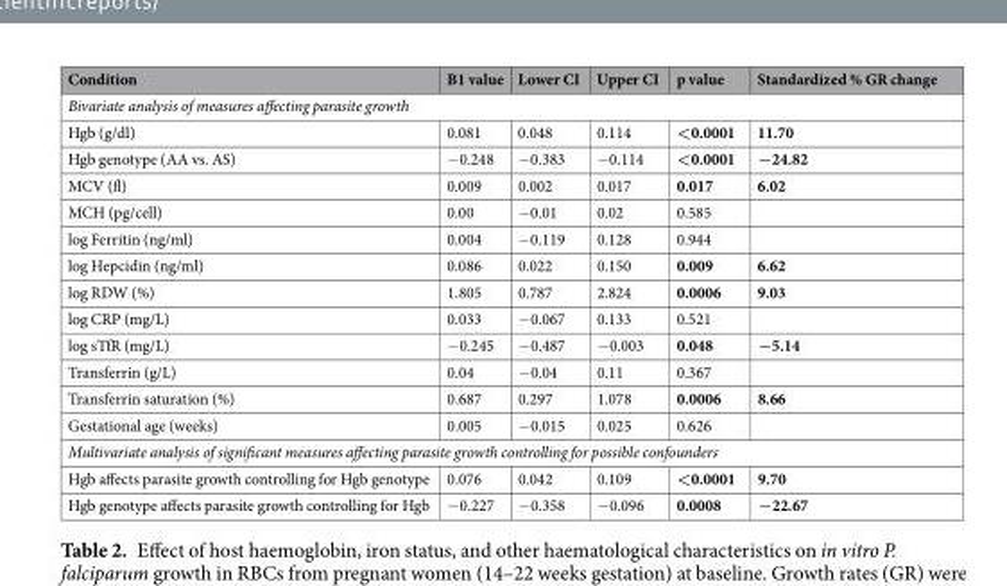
<table><thead><tr><td>Condition</td><td>B1 value</td><td>Lower CI</td><td>Upper CI</td><td>p value</td><td>Standardized % GR change</td></tr></thead><tbody><tr><td colspan="6">Bivariate analysis of measures affecting parasite growth</td></tr><tr><td>Hgb (g/dl)</td><td>0.081</td><td>0.048</td><td>0.114</td><td>&lt;0.0001</td><td>11.70</td></tr><tr><td>Hgb genotype (AA vs. AS)</td><td>−0.248</td><td>−0.383</td><td>−0.114</td><td>&lt;0.0001</td><td>−24.82</td></tr><tr><td>MCV (fl)</td><td>0.009</td><td>0.002</td><td>0.017</td><td>0.017</td><td>6.02</td></tr><tr><td>MCH (pg/cell)</td><td>0.00</td><td>−0.01</td><td>0.02</td><td>0.585</td><td></td></tr><tr><td>log Ferritin (ng/ml)</td><td>0.004</td><td>−0.119</td><td>0.128</td><td>0.944</td><td></td></tr><tr><td>log Hepcidin (ng/ml)</td><td>0.086</td><td>0.022</td><td>0.150</td><td>0.009</td><td>6.62</td></tr><tr><td>log RDW (%)</td><td>1.805</td><td>0.787</td><td>2.824</td><td>0.0006</td><td>9.03</td></tr><tr><td>log CRP (mg/L)</td><td>0.033</td><td>−0.067</td><td>0.133</td><td>0.521</td><td></td></tr><tr><td>log sTfR (mg/L)</td><td>−0.245</td><td>−0.487</td><td>−0.003</td><td>0.048</td><td>−5.14</td></tr><tr><td>Transferrin (g/L)</td><td>0.04</td><td>−0.04</td><td>0.11</td><td>0.367</td><td></td></tr><tr><td>Transferrin saturation (%)</td><td>0.687</td><td>0.297</td><td>1.078</td><td>0.0006</td><td>8.66</td></tr><tr><td>Gestational age (weeks)</td><td>0.005</td><td>−0.015</td><td>0.025</td><td>0.626</td><td></td></tr><tr><td colspan="6">Multivariate analysis of significant measures affecting parasite growth controlling for possible confounders</td></tr><tr><td>Hgb affects parasite growth controlling for Hgb genotype</td><td>0.076</td><td>0.042</td><td>0.109</td><td>&lt;0.0001</td><td>9.70</td></tr><tr><td>Hgb genotype affects parasite growth controlling for Hgb</td><td>−0.227</td><td>−0.358</td><td>−0.096</td><td>0.0008</td><td>−22.67</td></tr></tbody></table>